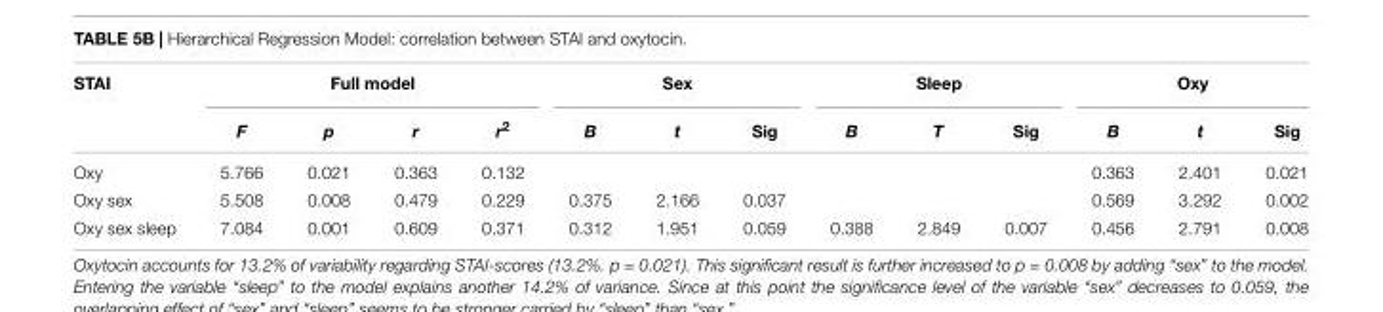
<table><thead><tr><td rowspan="2">STAI</td><td colspan="4">Full model</td><td colspan="3">Sex</td><td colspan="3">Sleep</td><td colspan="3">Oxy</td></tr><tr><td>F</td><td>p</td><td>r</td><td>r<sup>2</sup></td><td>B</td><td>t</td><td>Sig</td><td>B</td><td>T</td><td>Sig</td><td>B</td><td>t</td><td>Sig</td></tr></thead><tbody><tr><td>Oxy</td><td>5.766</td><td>0.021</td><td>0.363</td><td>0.132</td><td></td><td></td><td></td><td></td><td></td><td></td><td>0.363</td><td>2.401</td><td>0.021</td></tr><tr><td>Oxy sex</td><td>5.508</td><td>0.008</td><td>0.479</td><td>0.229</td><td>0.375</td><td>2.166</td><td>0.037</td><td></td><td></td><td></td><td>0.569</td><td>3.292</td><td>0.002</td></tr><tr><td>Oxy sex sleep</td><td>7.084</td><td>0.001</td><td>0.609</td><td>0.371</td><td>0.312</td><td>1.951</td><td>0.059</td><td>0.388</td><td>2.849</td><td>0.007</td><td>0.456</td><td>2.791</td><td>0.008</td></tr></tbody></table>